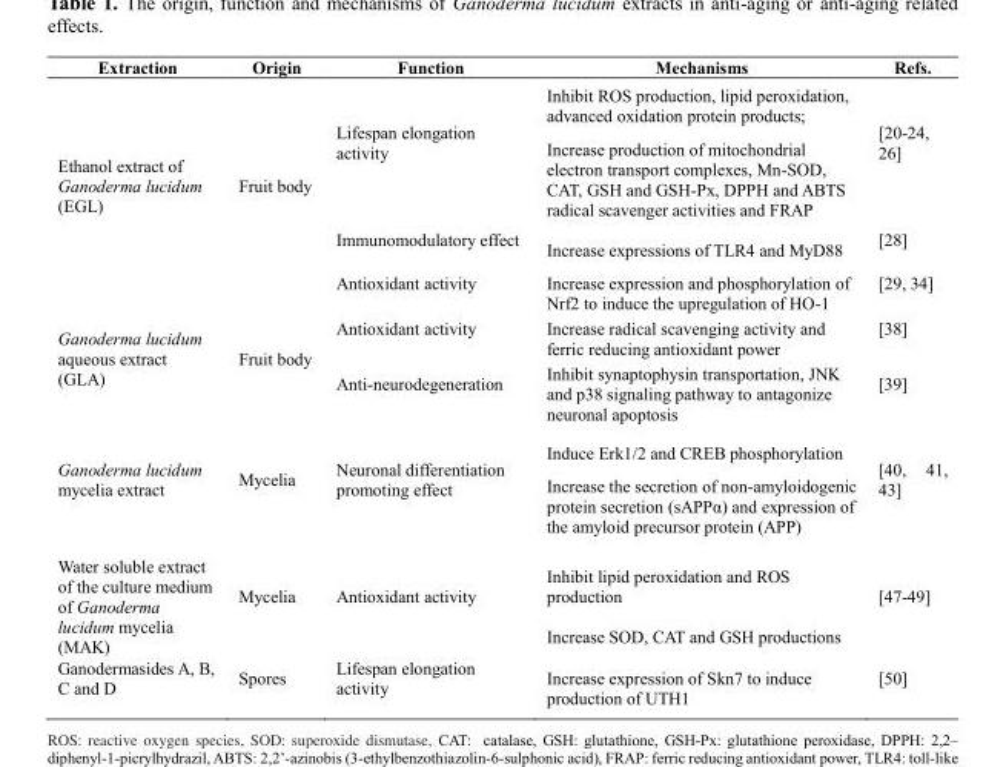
<table><thead><tr><td>Extraction</td><td>Origin</td><td>Function</td><td>Mechanisms</td><td>Refs.</td></tr></thead><tbody><tr><td rowspan="3">Ethanol extract of Ganoderma lucidum (EGL)</td><td rowspan="3">Fruit body</td><td>Lifespan elongation activity</td><td>Inhibit ROS production, lipid peroxidation, advanced oxidation protein products; Increase production of mitochondrial electron transport complexes, Mn-SOD, CAT, GSH and GSH-Px, DPPH and ABTS radical scavenger activities and FRAP</td><td>[20-24, 26]</td></tr><tr><td>Immunomodulatory effect</td><td>Increase expressions of TLR4 and MyD88</td><td>[28]</td></tr><tr><td>Antioxidant activity</td><td>Increase expression and phosphorylation of Nrf2 to induce the upregulation of HO-1</td><td>[29, 34]</td></tr><tr><td rowspan="2">Ganoderma lucidum aqueous extract (GLA)</td><td rowspan="2">Fruit body</td><td>Antioxidant activity</td><td>Increase radical scavenging activity and ferric reducing antioxidant power</td><td>[38]</td></tr><tr><td>Anti-neurodegeneration</td><td>Inhibit synaptophysin transportation, JNK and p38 signaling pathway to antagonize neuronal apoptosis</td><td>[39]</td></tr><tr><td>Ganoderma lucidum mycelia extract</td><td>Mycelia</td><td>Neuronal differentiation promoting effect</td><td>Induce Erk1/2 and CREB phosphorylation Increase the secretion of non-amyloidogenic protein secretion (sAPPα) and expression of the amyloid precursor protein (APP)</td><td>[40, 41, 43]</td></tr><tr><td>Water soluble extract of the culture medium of Ganoderma lucidum mycelia (MAK)</td><td>Mycelia</td><td>Antioxidant activity</td><td>Inhibit lipid peroxidation and ROS production Increase SOD, CAT and GSH productions</td><td>[47-49]</td></tr><tr><td>Ganodermasides A, B, C and D</td><td>Spores</td><td>Lifespan elongation activity</td><td>Increase expression of Skn7 to induce production of UTH1</td><td>[50]</td></tr></tbody></table>